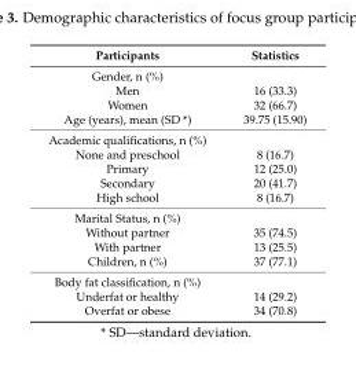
<table><thead><tr><td>Participants</td><td>Statistics</td></tr></thead><tbody><tr><td colspan="2">Gender, n (%)</td></tr><tr><td>Men</td><td>16 (33.3)</td></tr><tr><td>Women</td><td>32 (66.7)</td></tr><tr><td>Age (years), mean (SD *)</td><td>39.75 (15.90)</td></tr><tr><td colspan="2">Academic qualifications, n (%)</td></tr><tr><td>None and preschool</td><td>8 (16.7)</td></tr><tr><td>Primary</td><td>12 (25.0)</td></tr><tr><td>Secondary</td><td>20 (41.7)</td></tr><tr><td>High school</td><td>8 (16.7)</td></tr><tr><td colspan="2">Marital Status, n (%)</td></tr><tr><td>Without partner</td><td>35 (74.5)</td></tr><tr><td>With partner</td><td>13 (25.5)</td></tr><tr><td>Children, n (%)</td><td>37 (77.1)</td></tr><tr><td colspan="2">Body fat classification, n (%)</td></tr><tr><td>Underfat or healthy</td><td>14 (29.2)</td></tr><tr><td>Overfat or obese</td><td>34 (70.8)</td></tr></tbody></table>